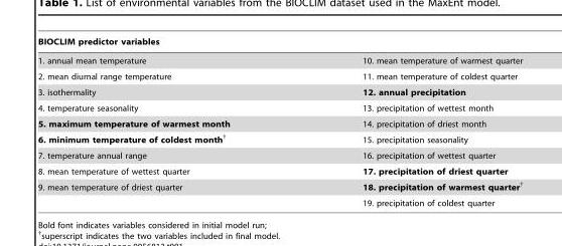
<table><thead><tr><td colspan="2">BIOCLIM predictor variables</td></tr><tr><td>1. annual mean temperature</td><td>10. mean temperature of warmest quarter</td></tr></thead><tbody><tr><td>2. mean diurnal range temperature</td><td>11. mean temperature of coldest quarter</td></tr><tr><td>3. isothermality</td><td>12. annual precipitation</td></tr><tr><td>4. temperature seasonality</td><td>13. precipitation of wettest month</td></tr><tr><td>5. maximum temperature of warmest month</td><td>14. precipitation of driest month</td></tr><tr><td>6. minimum temperature of coldest month†</td><td>15. precipitation seasonality</td></tr><tr><td>7. temperature annual range</td><td>16. precipitation of wettest quarter</td></tr><tr><td>8. mean temperature of wettest quarter</td><td>17. precipitation of driest quarter</td></tr><tr><td rowspan="2">9. mean temperature of driest quarter</td><td>18. precipitation of warmest quarter†</td></tr><tr><td>19. precipitation of coldest quarter</td></tr></tbody></table>